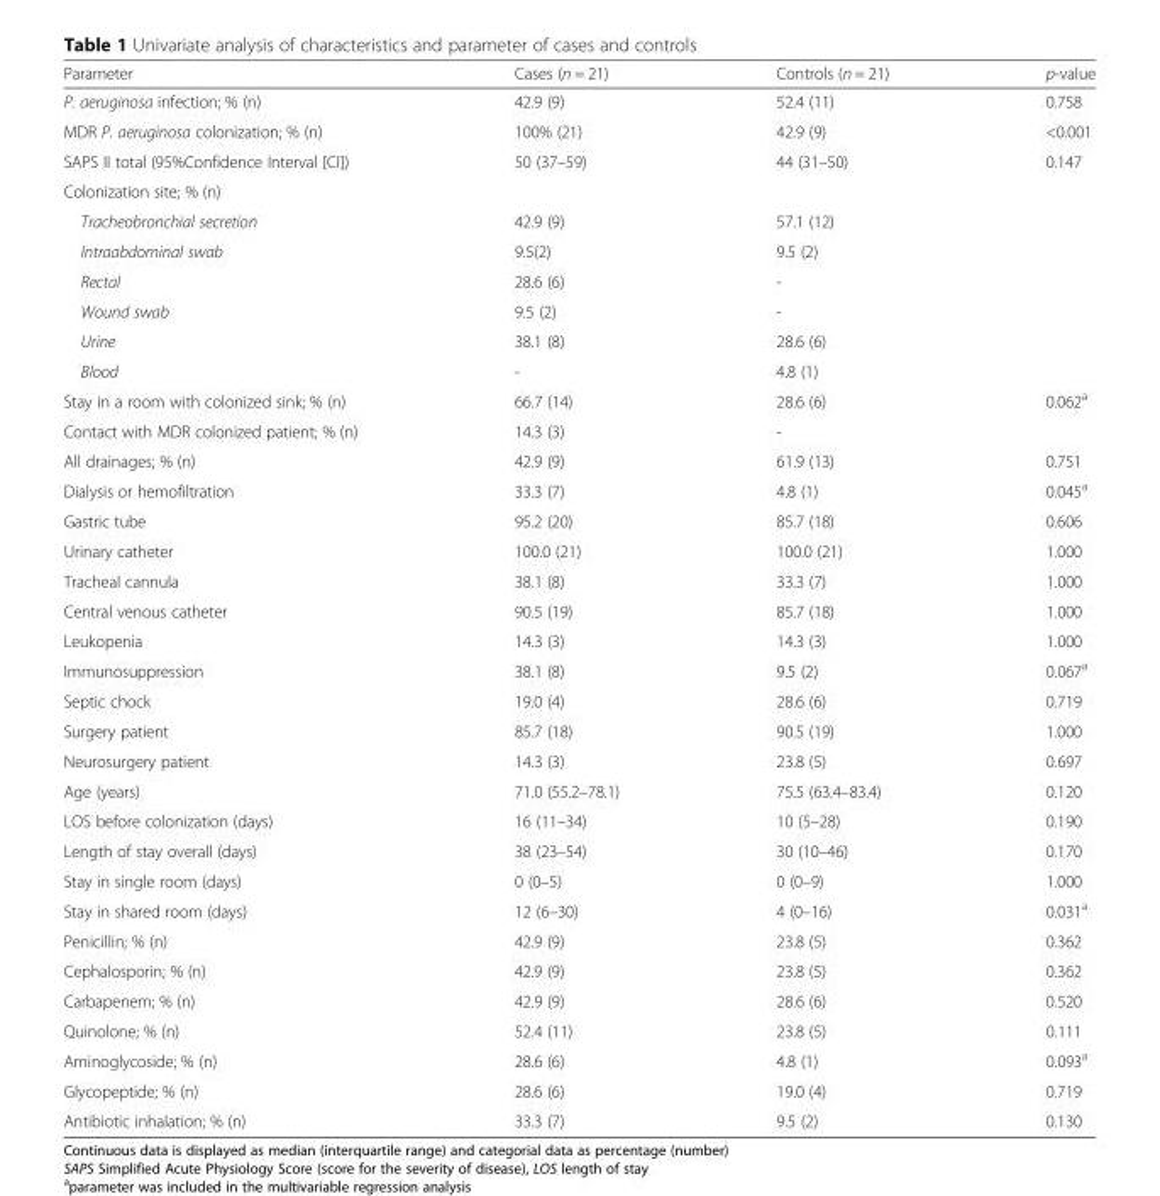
<table><thead><tr><td>Parameter</td><td>Cases (n = 21)</td><td>Controls (n = 21)</td><td>p-value</td></tr></thead><tbody><tr><td>P. aeruginosa infection; % (n)</td><td>42.9 (9)</td><td>52.4 (11)</td><td>0.758</td></tr><tr><td>MDR P. aeruginosa colonization; % (n)</td><td>100% (21)</td><td>42.9 (9)</td><td>&lt;0.001</td></tr><tr><td>SAPS II total (95%Confidence Interval [CI])</td><td>50 (37–59)</td><td>44 (31–50)</td><td>0.147</td></tr><tr><td colspan="4">Colonization site; % (n)</td></tr><tr><td>Tracheobronchial secretion</td><td>42.9 (9)</td><td>57.1 (12)</td><td></td></tr><tr><td>Intraabdominal swab</td><td>9.5(2)</td><td>9.5 (2)</td><td></td></tr><tr><td>Rectal</td><td>28.6 (6)</td><td>-</td><td></td></tr><tr><td>Wound swab</td><td>9.5 (2)</td><td>-</td><td></td></tr><tr><td>Urine</td><td>38.1 (8)</td><td>28.6 (6)</td><td></td></tr><tr><td>Blood</td><td>-</td><td>4.8 (1)</td><td></td></tr><tr><td>Stay in a room with colonized sink; % (n)</td><td>66.7 (14)</td><td>28.6 (6)</td><td>0.062<sup>a</sup></td></tr><tr><td>Contact with MDR colonized patient; % (n)</td><td>14.3 (3)</td><td>-</td><td></td></tr><tr><td>All drainages; % (n)</td><td>42.9 (9)</td><td>61.9 (13)</td><td>0.751</td></tr><tr><td>Dialysis or hemofiltration</td><td>33.3 (7)</td><td>4.8 (1)</td><td>0.045<sup>a</sup></td></tr><tr><td>Gastric tube</td><td>95.2 (20)</td><td>85.7 (18)</td><td>0.606</td></tr><tr><td>Urinary catheter</td><td>100.0 (21)</td><td>100.0 (21)</td><td>1.000</td></tr><tr><td>Tracheal cannula</td><td>38.1 (8)</td><td>33.3 (7)</td><td>1.000</td></tr><tr><td>Central venous catheter</td><td>90.5 (19)</td><td>85.7 (18)</td><td>1.000</td></tr><tr><td>Leukopenia</td><td>14.3 (3)</td><td>14.3 (3)</td><td>1.000</td></tr><tr><td>Immunosuppression</td><td>38.1 (8)</td><td>9.5 (2)</td><td>0.067<sup>a</sup></td></tr><tr><td>Septic chock</td><td>19.0 (4)</td><td>28.6 (6)</td><td>0.719</td></tr><tr><td>Surgery patient</td><td>85.7 (18)</td><td>90.5 (19)</td><td>1.000</td></tr><tr><td>Neurosurgery patient</td><td>14.3 (3)</td><td>23.8 (5)</td><td>0.697</td></tr><tr><td>Age (years)</td><td>71.0 (55.2–78.1)</td><td>75.5 (63.4–83.4)</td><td>0.120</td></tr><tr><td>LOS before colonization (days)</td><td>16 (11–34)</td><td>10 (5–28)</td><td>0.190</td></tr><tr><td>Length of stay overall (days)</td><td>38 (23–54)</td><td>30 (10–46)</td><td>0.170</td></tr><tr><td>Stay in single room (days)</td><td>0 (0–5)</td><td>0 (0–9)</td><td>1.000</td></tr><tr><td>Stay in shared room (days)</td><td>12 (6–30)</td><td>4 (0–16)</td><td>0.031<sup>a</sup></td></tr><tr><td>Penicillin; % (n)</td><td>42.9 (9)</td><td>23.8 (5)</td><td>0.362</td></tr><tr><td>Cephalosporin; % (n)</td><td>42.9 (9)</td><td>23.8 (5)</td><td>0.362</td></tr><tr><td>Carbapenem; % (n)</td><td>42.9 (9)</td><td>28.6 (6)</td><td>0.520</td></tr><tr><td>Quinolone; % (n)</td><td>52.4 (11)</td><td>23.8 (5)</td><td>0.111</td></tr><tr><td>Aminoglycoside; % (n)</td><td>28.6 (6)</td><td>4.8 (1)</td><td>0.093<sup>a</sup></td></tr><tr><td>Glycopeptide; % (n)</td><td>28.6 (6)</td><td>19.0 (4)</td><td>0.719</td></tr><tr><td>Antibiotic inhalation; % (n)</td><td>33.3 (7)</td><td>9.5 (2)</td><td>0.130</td></tr></tbody></table>